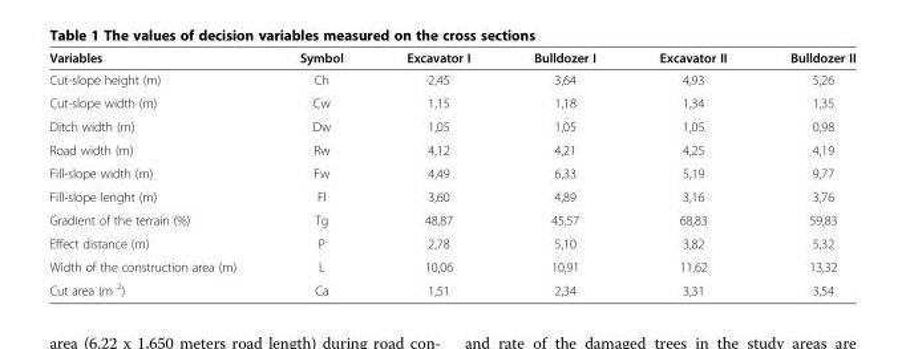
<table><thead><tr><td>Variables</td><td>Symbol</td><td>Excavator I</td><td>Bulldozer I</td><td>Excavator II</td><td>Bulldozer II</td></tr></thead><tbody><tr><td>Cut-slope height (m)</td><td>Ch</td><td>2,45</td><td>3,64</td><td>4,93</td><td>5,26</td></tr><tr><td>Cut-slope width (m)</td><td>Cw</td><td>1,15</td><td>1,18</td><td>1,34</td><td>1,35</td></tr><tr><td>Ditch width (m)</td><td>Dw</td><td>1,05</td><td>1,05</td><td>1,05</td><td>0,98</td></tr><tr><td>Road width (m)</td><td>Rw</td><td>4,12</td><td>4,21</td><td>4,25</td><td>4,19</td></tr><tr><td>Fill-slope width (m)</td><td>Fw</td><td>4,49</td><td>6,33</td><td>5,19</td><td>9,77</td></tr><tr><td>Fill-slope lenght (m)</td><td>Fl</td><td>3,60</td><td>4,89</td><td>3,16</td><td>3,76</td></tr><tr><td>Gradient of the terrain (%)</td><td>Tg</td><td>48,87</td><td>45,57</td><td>68,83</td><td>59,83</td></tr><tr><td>Effect distance (m)</td><td>P</td><td>2,78</td><td>5,10</td><td>3,82</td><td>5,32</td></tr><tr><td>Width of the construction area (m)</td><td>L</td><td>10,06</td><td>10,91</td><td>11,62</td><td>13,32</td></tr><tr><td>Cut area (m <sup>2</sup>)</td><td>Ca</td><td>1,51</td><td>2,34</td><td>3,31</td><td>3,54</td></tr></tbody></table>